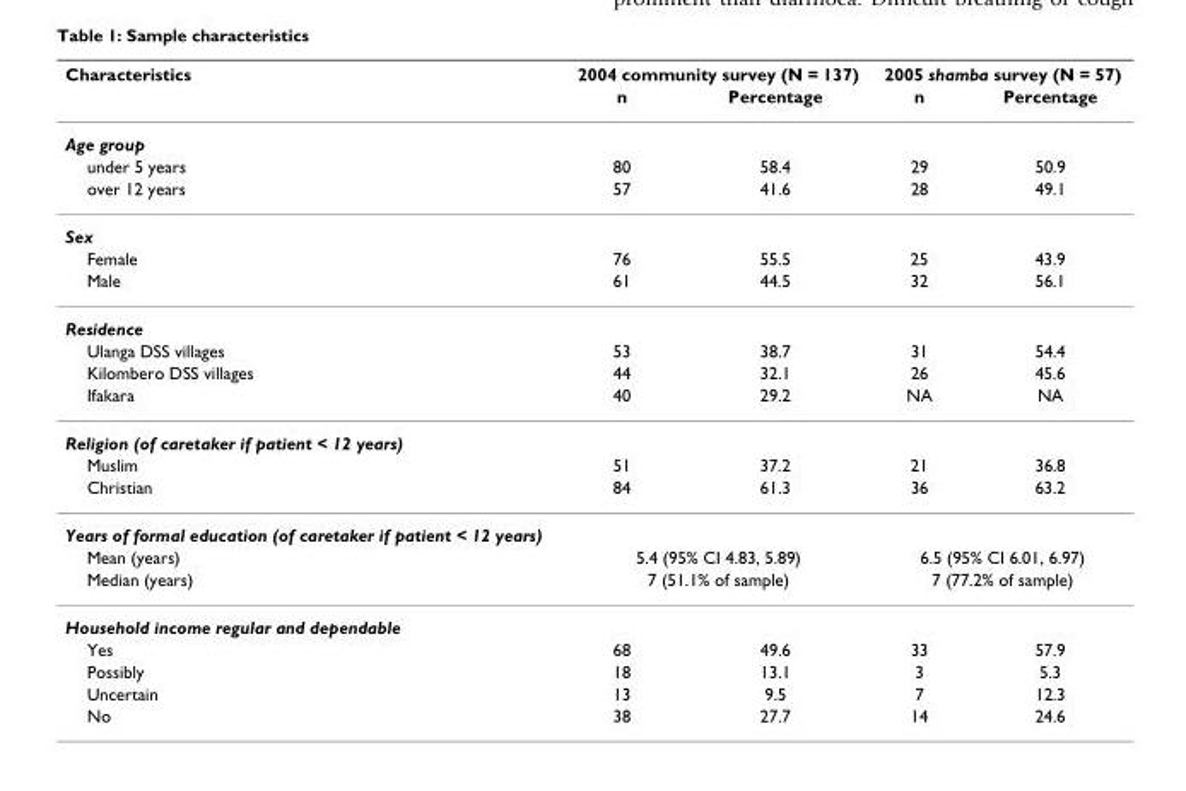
<table><thead><tr><td rowspan="2">Characteristics</td><td colspan="2">2004 community survey (N = 137)</td><td colspan="2">2005 shamba survey (N = 57)</td></tr><tr><td>n</td><td>Percentage</td><td>n</td><td>Percentage</td></tr></thead><tbody><tr><td colspan="5">Age group</td></tr><tr><td>under 5 years</td><td>80</td><td>58.4</td><td>29</td><td>50.9</td></tr><tr><td>over 12 years</td><td>57</td><td>41.6</td><td>28</td><td>49.1</td></tr><tr><td colspan="5">Sex</td></tr><tr><td>Female</td><td>76</td><td>55.5</td><td>25</td><td>43.9</td></tr><tr><td>Male</td><td>61</td><td>44.5</td><td>32</td><td>56.1</td></tr><tr><td colspan="5">Residence</td></tr><tr><td>Ulanga DSS villages</td><td>53</td><td>38.7</td><td>31</td><td>54.4</td></tr><tr><td>Kilombero DSS villages</td><td>44</td><td>32.1</td><td>26</td><td>45.6</td></tr><tr><td>Ifakara</td><td>40</td><td>29.2</td><td>NA</td><td>NA</td></tr><tr><td colspan="5">Religion (of caretaker if patient &lt; 12 years)</td></tr><tr><td>Muslim</td><td>51</td><td>37.2</td><td>21</td><td>36.8</td></tr><tr><td>Christian</td><td>84</td><td>61.3</td><td>36</td><td>63.2</td></tr><tr><td colspan="5">Years of formal education (of caretaker if patient &lt; 12 years)</td></tr><tr><td>Mean (years)</td><td colspan="2">5.4 (95% CI 4.83, 5.89)</td><td colspan="2">6.5 (95% CI 6.01, 6.97)</td></tr><tr><td>Median (years)</td><td colspan="2">7 (51.1% of sample)</td><td colspan="2">7 (77.2% of sample)</td></tr><tr><td colspan="5">Household income regular and dependable</td></tr><tr><td>Yes</td><td>68</td><td>49.6</td><td>33</td><td>57.9</td></tr><tr><td>Possibly</td><td>18</td><td>13.1</td><td>3</td><td>5.3</td></tr><tr><td>Uncertain</td><td>13</td><td>9.5</td><td>7</td><td>12.3</td></tr><tr><td>No</td><td>38</td><td>27.7</td><td>14</td><td>24.6</td></tr></tbody></table>